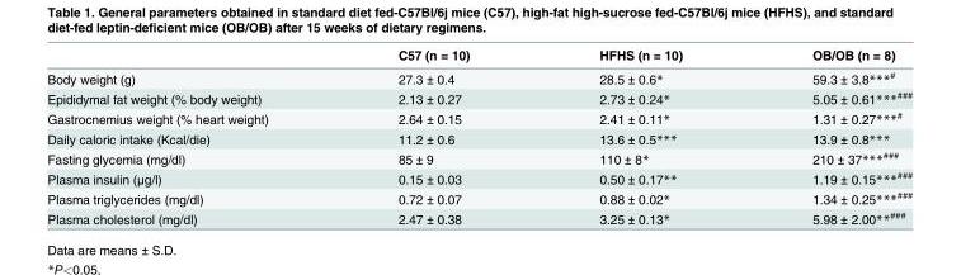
<table><thead><tr><td></td><td>C57 (n = 10)</td><td>HFHS (n = 10)</td><td>OB/OB (n = 8)</td></tr></thead><tbody><tr><td>Body weight (g)</td><td>27.3 ± 0.4</td><td>28.5 ± 0.6*</td><td>59.3 ± 3.8***<sup>#</sup></td></tr><tr><td>Epididymal fat weight (% body weight)</td><td>2.13 ± 0.27</td><td>2.73 ± 0.24*</td><td>5.05 ± 0.61***<sup>###</sup></td></tr><tr><td>Gastrocnemius weight (% heart weight)</td><td>2.64 ± 0.15</td><td>2.41 ± 0.11*</td><td>1.31 ± 0.27***<sup>#</sup></td></tr><tr><td>Daily caloric intake (Kcal/die)</td><td>11.2 ± 0.6</td><td>13.6 ± 0.5***</td><td>13.9 ± 0.8***</td></tr><tr><td>Fasting glycemia (mg/dl)</td><td>85 ± 9</td><td>110 ± 8*</td><td>210 ± 37***<sup>###</sup></td></tr><tr><td>Plasma insulin (μg/l)</td><td>0.15 ± 0.03</td><td>0.50 ± 0.17**</td><td>1.19 ± 0.15***<sup>###</sup></td></tr><tr><td>Plasma triglycerides (mg/dl)</td><td>0.72 ± 0.07</td><td>0.88 ± 0.02*</td><td>1.34 ± 0.25***<sup>###</sup></td></tr><tr><td>Plasma cholesterol (mg/dl)</td><td>2.47 ± 0.38</td><td>3.25 ± 0.13*</td><td>5.98 ± 2.00**<sup>###</sup></td></tr></tbody></table>